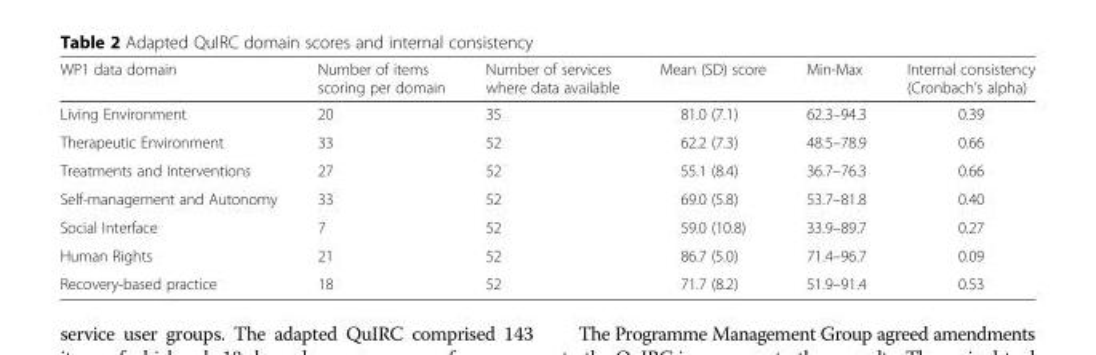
<table><thead><tr><td>WP1 data domain</td><td>Number of items scoring per domain</td><td>Number of services where data available</td><td>Mean (SD) score</td><td>Min-Max</td><td>Internal consistency (Cronbach’s alpha)</td></tr></thead><tbody><tr><td>Living Environment</td><td>20</td><td>35</td><td>81.0 (7.1)</td><td>62.3–94.3</td><td>0.39</td></tr><tr><td>Therapeutic Environment</td><td>33</td><td>52</td><td>62.2 (7.3)</td><td>48.5–78.9</td><td>0.66</td></tr><tr><td>Treatments and Interventions</td><td>27</td><td>52</td><td>55.1 (8.4)</td><td>36.7–76.3</td><td>0.66</td></tr><tr><td>Self-management and Autonomy</td><td>33</td><td>52</td><td>69.0 (5.8)</td><td>53.7–81.8</td><td>0.40</td></tr><tr><td>Social Interface</td><td>7</td><td>52</td><td>59.0 (10.8)</td><td>33.9–89.7</td><td>0.27</td></tr><tr><td>Human Rights</td><td>21</td><td>52</td><td>86.7 (5.0)</td><td>71.4–96.7</td><td>0.09</td></tr><tr><td>Recovery-based practice</td><td>18</td><td>52</td><td>71.7 (8.2)</td><td>51.9–91.4</td><td>0.53</td></tr></tbody></table>